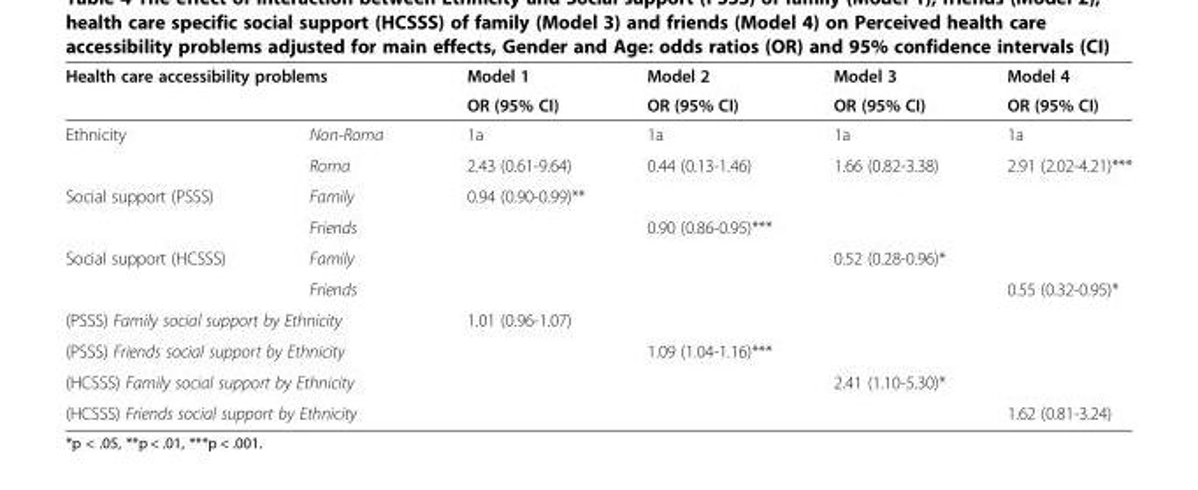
<table><thead><tr><td rowspan="2" colspan="2">Health care accessibility problems</td><td rowspan="3">Model 1 OR (95% CI) 1a</td><td rowspan="3">Model 2 OR (95% CI) 1a</td><td rowspan="3">Model 3 OR (95% CI) 1a</td><td rowspan="3">Model 4 OR (95% CI) 1a</td></tr><tr></tr><tr><td>Ethnicity</td><td>Non-Roma</td></tr></thead><tbody><tr><td></td><td>Roma</td><td>2.43 (0.61-9.64)</td><td>0.44 (0.13-1.46)</td><td>1.66 (0.82-3.38)</td><td>2.91 (2.02-4.21)***</td></tr><tr><td rowspan="2">Social support (PSSS)</td><td>Family</td><td>0.94 (0.90-0.99)**</td><td></td><td></td><td></td></tr><tr><td>Friends</td><td></td><td>0.90 (0.86-0.95)***</td><td></td><td></td></tr><tr><td rowspan="2">Social support (HCSSS)</td><td>Family</td><td></td><td></td><td>0.52 (0.28-0.96)*</td><td></td></tr><tr><td>Friends</td><td></td><td></td><td></td><td>0.55 (0.32-0.95)*</td></tr><tr><td colspan="2">(PSSS) Family social support by Ethnicity</td><td>1.01 (0.96-1.07)</td><td></td><td></td><td></td></tr><tr><td colspan="2">(PSSS) Friends social support by Ethnicity</td><td></td><td>1.09 (1.04-1.16)***</td><td></td><td></td></tr><tr><td colspan="2">(HCSSS) Family social support by Ethnicity</td><td></td><td></td><td>2.41 (1.10-5.30)*</td><td></td></tr><tr><td colspan="2">(HCSSS) Friends social support by Ethnicity</td><td></td><td></td><td></td><td>1.62 (0.81-3.24)</td></tr></tbody></table>